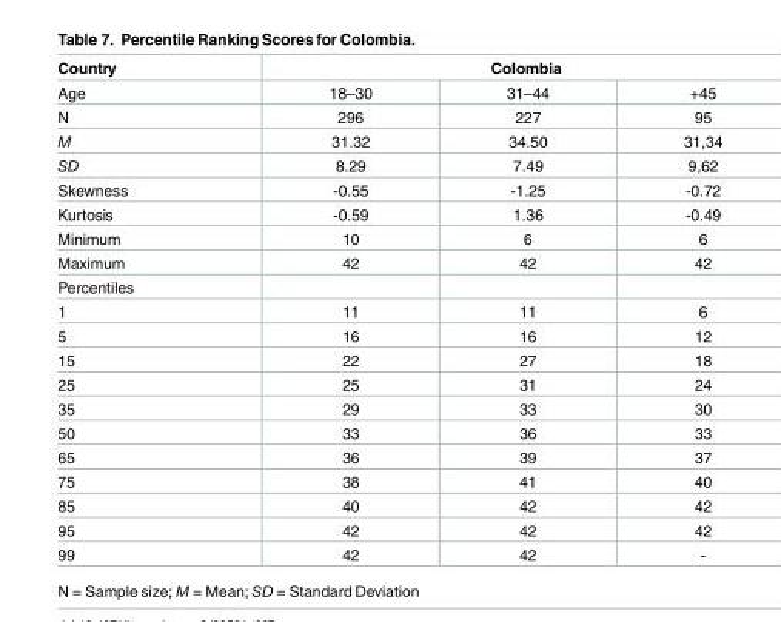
<table><thead><tr><td rowspan="2">Country Age</td><td colspan="3">Colombia</td></tr><tr><td>18–30</td><td>31–44</td><td>+45</td></tr></thead><tbody><tr><td>N</td><td>296</td><td>227</td><td>95</td></tr><tr><td>M</td><td>31.32</td><td>34.50</td><td>31,34</td></tr><tr><td>SD</td><td>8.29</td><td>7.49</td><td>9,62</td></tr><tr><td>Skewness</td><td>-0.55</td><td>-1.25</td><td>-0.72</td></tr><tr><td>Kurtosis</td><td>-0.59</td><td>1.36</td><td>-0.49</td></tr><tr><td>Minimum</td><td>10</td><td>6</td><td>6</td></tr><tr><td>Maximum</td><td>42</td><td>42</td><td>42</td></tr><tr><td colspan="4">Percentiles</td></tr><tr><td>1</td><td>11</td><td>11</td><td>6</td></tr><tr><td>5</td><td>16</td><td>16</td><td>12</td></tr><tr><td>15</td><td>22</td><td>27</td><td>18</td></tr><tr><td>25</td><td>25</td><td>31</td><td>24</td></tr><tr><td>35</td><td>29</td><td>33</td><td>30</td></tr><tr><td>50</td><td>33</td><td>36</td><td>33</td></tr><tr><td>65</td><td>36</td><td>39</td><td>37</td></tr><tr><td>75</td><td>38</td><td>41</td><td>40</td></tr><tr><td>85</td><td>40</td><td>42</td><td>42</td></tr><tr><td>95</td><td>42</td><td>42</td><td>42</td></tr><tr><td>99</td><td>42</td><td>42</td><td>-</td></tr></tbody></table>